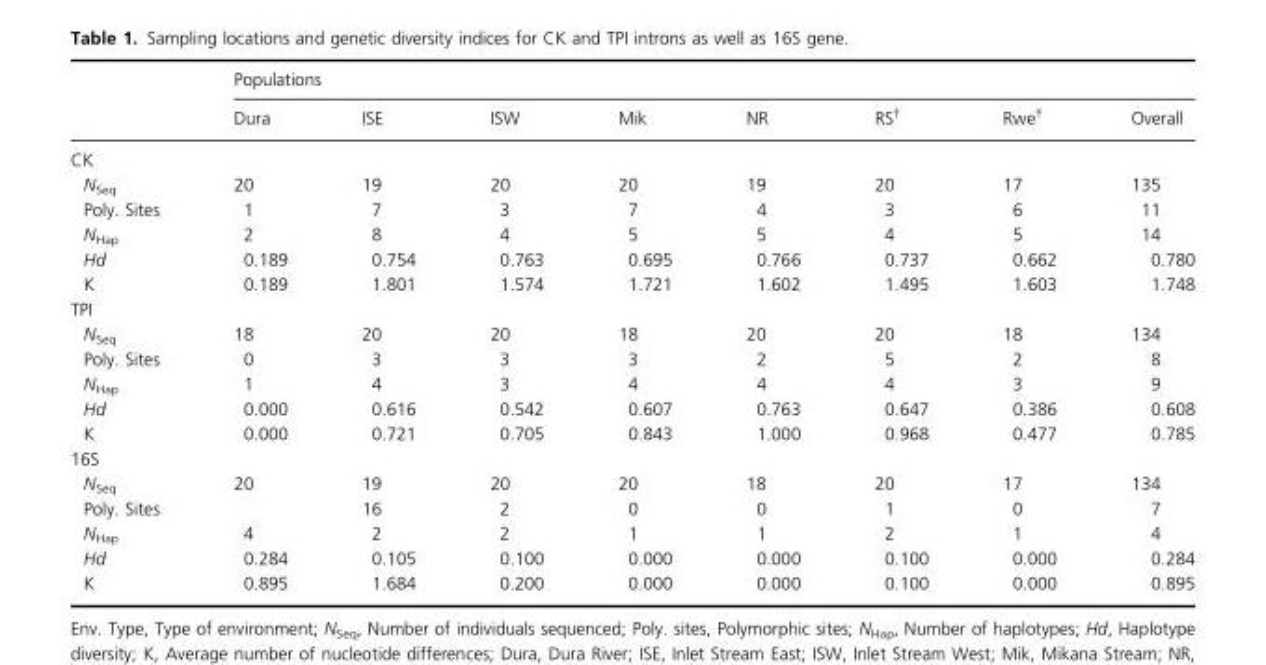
<table><thead><tr><td rowspan="2"></td><td colspan="8">Populations</td></tr><tr><td>Dura</td><td>ISE</td><td>ISW</td><td>Mik</td><td>NR</td><td>RS†</td><td>Rwe†</td><td>Overall</td></tr></thead><tbody><tr><td colspan="9">CK</td></tr><tr><td>N<sub>Seq</sub></td><td>20</td><td>19</td><td>20</td><td>20</td><td>19</td><td>20</td><td>17</td><td>135</td></tr><tr><td>Poly. Sites</td><td>1</td><td>7</td><td>3</td><td>7</td><td>4</td><td>3</td><td>6</td><td>11</td></tr><tr><td>N<sub>Hap</sub></td><td>2</td><td>8</td><td>4</td><td>5</td><td>5</td><td>4</td><td>5</td><td>14</td></tr><tr><td>Hd</td><td>0.189</td><td>0.754</td><td>0.763</td><td>0.695</td><td>0.766</td><td>0.737</td><td>0.662</td><td>0.780</td></tr><tr><td>K</td><td>0.189</td><td>1.801</td><td>1.574</td><td>1.721</td><td>1.602</td><td>1.495</td><td>1.603</td><td>1.748</td></tr><tr><td colspan="9">TPI</td></tr><tr><td>N<sub>Seq</sub></td><td>18</td><td>20</td><td>20</td><td>18</td><td>20</td><td>20</td><td>18</td><td>134</td></tr><tr><td>Poly. Sites</td><td>0</td><td>3</td><td>3</td><td>3</td><td>2</td><td>5</td><td>2</td><td>8</td></tr><tr><td>N<sub>Hap</sub></td><td>1</td><td>4</td><td>3</td><td>4</td><td>4</td><td>4</td><td>3</td><td>9</td></tr><tr><td>Hd</td><td>0.000</td><td>0.616</td><td>0.542</td><td>0.607</td><td>0.763</td><td>0.647</td><td>0.386</td><td>0.608</td></tr><tr><td>K</td><td>0.000</td><td>0.721</td><td>0.705</td><td>0.843</td><td>1.000</td><td>0.968</td><td>0.477</td><td>0.785</td></tr><tr><td colspan="9">16S</td></tr><tr><td>N<sub>Seq</sub></td><td>20</td><td>19</td><td>20</td><td>20</td><td>18</td><td>20</td><td>17</td><td>134</td></tr><tr><td>Poly. Sites</td><td></td><td>16</td><td>2</td><td>0</td><td>0</td><td>1</td><td>0</td><td>7</td></tr><tr><td>N<sub>Hap</sub></td><td>4</td><td>2</td><td>2</td><td>1</td><td>1</td><td>2</td><td>1</td><td>4</td></tr><tr><td>Hd</td><td>0.284</td><td>0.105</td><td>0.100</td><td>0.000</td><td>0.000</td><td>0.100</td><td>0.000</td><td>0.284</td></tr><tr><td>K</td><td>0.895</td><td>1.684</td><td>0.200</td><td>0.000</td><td>0.000</td><td>0.100</td><td>0.000</td><td>0.895</td></tr></tbody></table>